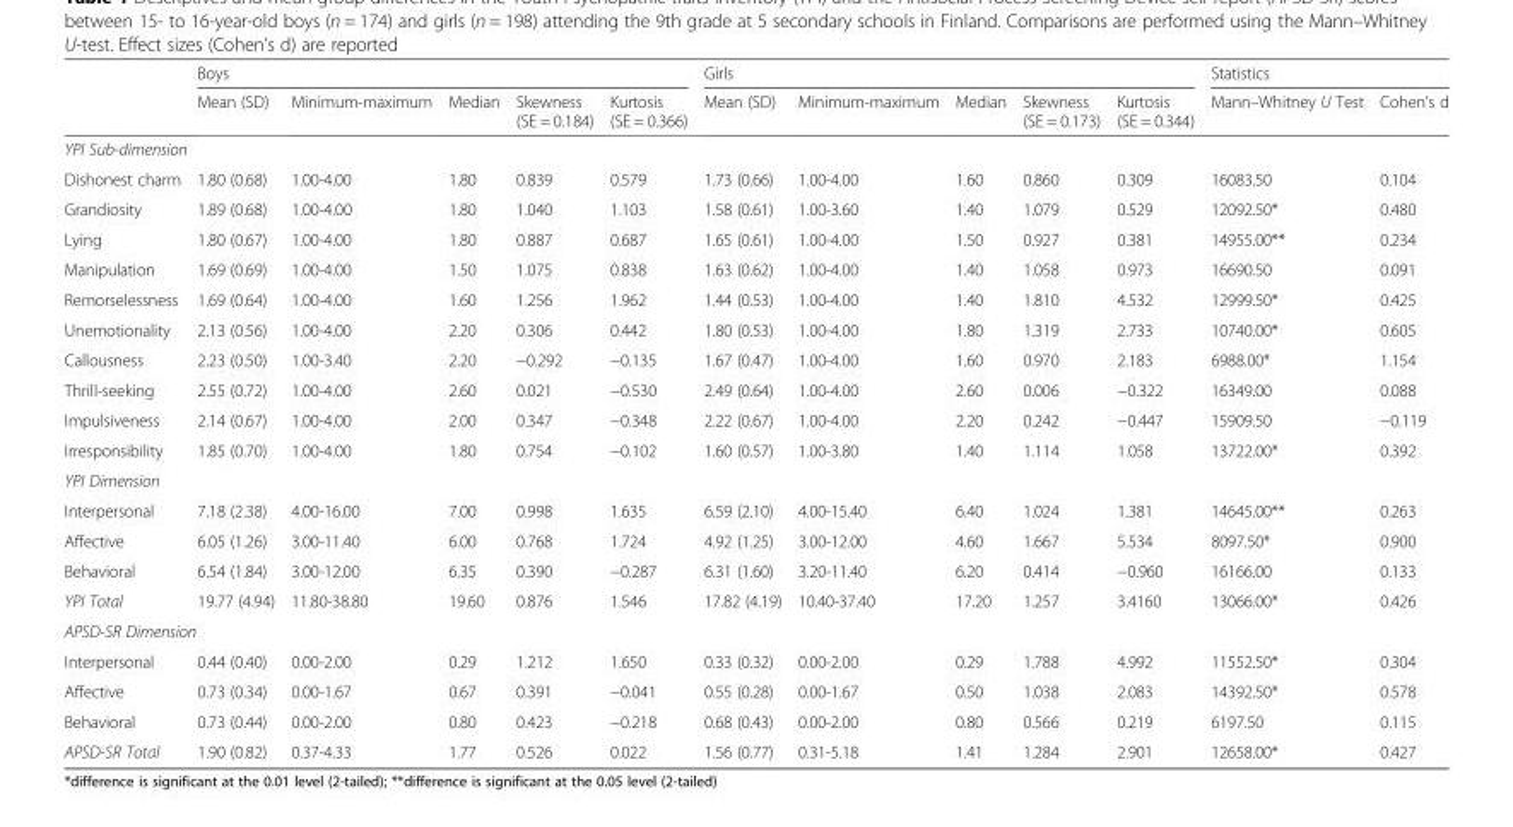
<table><thead><tr><td rowspan="2"></td><td colspan="5">Boys</td><td colspan="5">Girls</td><td colspan="2">Statistics</td></tr><tr><td>Mean (SD)</td><td>Minimum-maximum</td><td>Median</td><td>Skewness (SE = 0.184)</td><td>Kurtosis (SE = 0.366)</td><td>Mean (SD)</td><td>Minimum-maximum</td><td>Median</td><td>Skewness (SE = 0.173)</td><td>Kurtosis (SE = 0.344)</td><td>Mann–Whitney U Test</td><td>Cohen’s d</td></tr></thead><tbody><tr><td colspan="13">YPI Sub-dimension</td></tr><tr><td>Dishonest charm</td><td>1.80 (0.68)</td><td>1.00-4.00</td><td>1.80</td><td>0.839</td><td>0.579</td><td>1.73 (0.66)</td><td>1.00-4.00</td><td>1.60</td><td>0.860</td><td>0.309</td><td>16083.50</td><td>0.104</td></tr><tr><td>Grandiosity</td><td>1.89 (0.68)</td><td>1.00-4.00</td><td>1.80</td><td>1.040</td><td>1.103</td><td>1.58 (0.61)</td><td>1.00-3.60</td><td>1.40</td><td>1.079</td><td>0.529</td><td>12092.50*</td><td>0.480</td></tr><tr><td>Lying</td><td>1.80 (0.67)</td><td>1.00-4.00</td><td>1.80</td><td>0.887</td><td>0.687</td><td>1.65 (0.61)</td><td>1.00-4.00</td><td>1.50</td><td>0.927</td><td>0.381</td><td>14955.00**</td><td>0.234</td></tr><tr><td>Manipulation</td><td>1.69 (0.69)</td><td>1.00-4.00</td><td>1.50</td><td>1.075</td><td>0.838</td><td>1.63 (0.62)</td><td>1.00-4.00</td><td>1.40</td><td>1.058</td><td>0.973</td><td>16690.50</td><td>0.091</td></tr><tr><td>Remorselessness</td><td>1.69 (0.64)</td><td>1.00-4.00</td><td>1.60</td><td>1.256</td><td>1.962</td><td>1.44 (0.53)</td><td>1.00-4.00</td><td>1.40</td><td>1.810</td><td>4.532</td><td>12999.50*</td><td>0.425</td></tr><tr><td>Unemotionality</td><td>2.13 (0.56)</td><td>1.00-4.00</td><td>2.20</td><td>0.306</td><td>0.442</td><td>1.80 (0.53)</td><td>1.00-4.00</td><td>1.80</td><td>1.319</td><td>2.733</td><td>10740.00*</td><td>0.605</td></tr><tr><td>Callousness</td><td>2.23 (0.50)</td><td>1.00-3.40</td><td>2.20</td><td>−0.292</td><td>−0.135</td><td>1.67 (0.47)</td><td>1.00-4.00</td><td>1.60</td><td>0.970</td><td>2.183</td><td>6988.00*</td><td>1.154</td></tr><tr><td>Thrill-seeking</td><td>2.55 (0.72)</td><td>1.00-4.00</td><td>2.60</td><td>0.021</td><td>−0.530</td><td>2.49 (0.64)</td><td>1.00-4.00</td><td>2.60</td><td>0.006</td><td>−0.322</td><td>16349.00</td><td>0.088</td></tr><tr><td>Impulsiveness</td><td>2.14 (0.67)</td><td>1.00-4.00</td><td>2.00</td><td>0.347</td><td>−0.348</td><td>2.22 (0.67)</td><td>1.00-4.00</td><td>2.20</td><td>0.242</td><td>−0.447</td><td>15909.50</td><td>−0.119</td></tr><tr><td>Irresponsibility</td><td>1.85 (0.70)</td><td>1.00-4.00</td><td>1.80</td><td>0.754</td><td>−0.102</td><td>1.60 (0.57)</td><td>1.00-3.80</td><td>1.40</td><td>1.114</td><td>1.058</td><td>13722.00*</td><td>0.392</td></tr><tr><td colspan="13">YPI Dimension</td></tr><tr><td>Interpersonal</td><td>7.18 (2.38)</td><td>4.00-16.00</td><td>7.00</td><td>0.998</td><td>1.635</td><td>6.59 (2.10)</td><td>4.00-15.40</td><td>6.40</td><td>1.024</td><td>1.381</td><td>14645.00**</td><td>0.263</td></tr><tr><td>Affective</td><td>6.05 (1.26)</td><td>3.00-11.40</td><td>6.00</td><td>0.768</td><td>1.724</td><td>4.92 (1.25)</td><td>3.00-12.00</td><td>4.60</td><td>1.667</td><td>5.534</td><td>8097.50*</td><td>0.900</td></tr><tr><td>Behavioral</td><td>6.54 (1.84)</td><td>3.00-12.00</td><td>6.35</td><td>0.390</td><td>−0.287</td><td>6.31 (1.60)</td><td>3.20-11.40</td><td>6.20</td><td>0.414</td><td>−0.960</td><td>16166.00</td><td>0.133</td></tr><tr><td>YPI Total</td><td>19.77 (4.94)</td><td>11.80-38.80</td><td>19.60</td><td>0.876</td><td>1.546</td><td>17.82 (4.19)</td><td>10.40-37.40</td><td>17.20</td><td>1.257</td><td>3.4160</td><td>13066.00*</td><td>0.426</td></tr><tr><td colspan="13">APSD-SR Dimension</td></tr><tr><td>Interpersonal</td><td>0.44 (0.40)</td><td>0.00-2.00</td><td>0.29</td><td>1.212</td><td>1.650</td><td>0.33 (0.32)</td><td>0.00-2.00</td><td>0.29</td><td>1.788</td><td>4.992</td><td>11552.50*</td><td>0.304</td></tr><tr><td>Affective</td><td>0.73 (0.34)</td><td>0.00-1.67</td><td>0.67</td><td>0.391</td><td>−0.041</td><td>0.55 (0.28)</td><td>0.00-1.67</td><td>0.50</td><td>1.038</td><td>2.083</td><td>14392.50*</td><td>0.578</td></tr><tr><td>Behavioral</td><td>0.73 (0.44)</td><td>0.00-2.00</td><td>0.80</td><td>0.423</td><td>−0.218</td><td>0.68 (0.43)</td><td>0.00-2.00</td><td>0.80</td><td>0.566</td><td>0.219</td><td>6197.50</td><td>0.115</td></tr><tr><td>APSD-SR Total</td><td>1.90 (0.82)</td><td>0.37-4.33</td><td>1.77</td><td>0.526</td><td>0.022</td><td>1.56 (0.77)</td><td>0.31-5.18</td><td>1.41</td><td>1.284</td><td>2.901</td><td>12658.00*</td><td>0.427</td></tr></tbody></table>